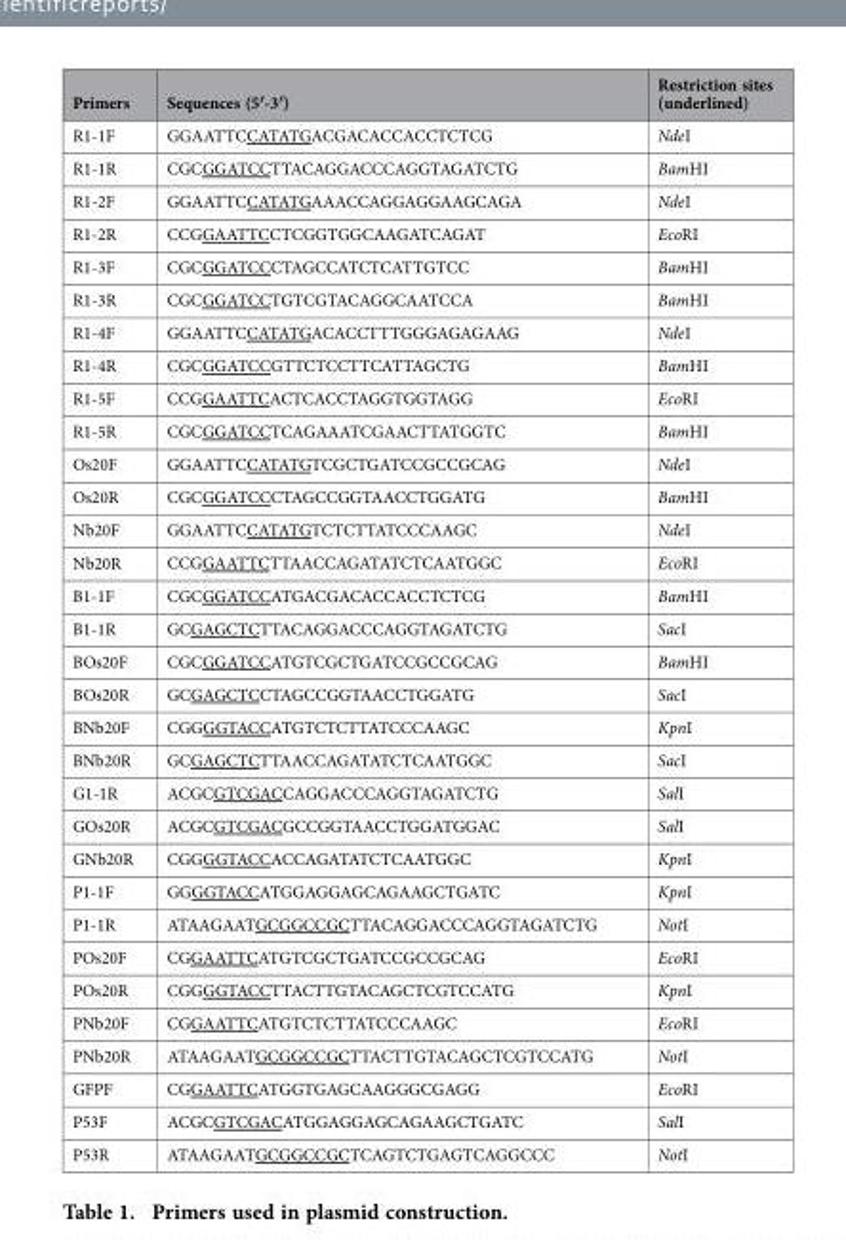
<table><thead><tr><td>Primers</td><td>Sequences (5′-3′)</td><td>Restriction sites (underlined)</td></tr></thead><tbody><tr><td>R1-1F</td><td>GGAATTCCATATGACGACACCACCTCTCG</td><td>NdeI</td></tr><tr><td>R1-1R</td><td>CGCGGATCCTTACAGGACCCAGGTAGATCTG</td><td>BamHI</td></tr><tr><td>R1-2F</td><td>GGAATTCCATATGAAACCAGGAGGAAGCAGA</td><td>NdeI</td></tr><tr><td>R1-2R</td><td>CCGGAATTCCTCGGTGGCAAGATCAGAT</td><td>EcoRI</td></tr><tr><td>R1-3F</td><td>CGCGGATCCCTAGCCATCTCATTGTCC</td><td>BamHI</td></tr><tr><td>R1-3R</td><td>CGCGGATCCTGTCGTACAGGCAATCCA</td><td>BamHI</td></tr><tr><td>R1-4F</td><td>GGAATTCCATATGACACCTTTGGGAGAGAAG</td><td>NdeI</td></tr><tr><td>R1-4R</td><td>CGCGGATCCGTTCTCCTTCATTAGCTG</td><td>BamHI</td></tr><tr><td>R1-5F</td><td>CCGGAATTCACTCACCTAGGTGGTAGG</td><td>EcoRI</td></tr><tr><td>R1-5R</td><td>CGCGGATCCTCAGAAATCGAACTTATGGTC</td><td>BamHI</td></tr><tr><td>Os20F</td><td>GGAATTCCATATGTCGCTGATCCGCCGCAG</td><td>NdeI</td></tr><tr><td>Os20R</td><td>CGCGGATCCCTAGCCGGTAACCTGGATG</td><td>BamHI</td></tr><tr><td>Nb20F</td><td>GGAATTCCATATGTCTCTTATCCCAAGC</td><td>NdeI</td></tr><tr><td>Nb20R</td><td>CCGGAATTCTTAACCAGATATCTCAATGGC</td><td>EcoRI</td></tr><tr><td>B1-1F</td><td>CGCGGATCCATGACGACACCACCTCTCG</td><td>BamHI</td></tr><tr><td>B1-1R</td><td>GCGAGCTCTTACAGGACCCAGGTAGATCTG</td><td>SacI</td></tr><tr><td>BOs20F</td><td>CGCGGATCCATGTCGCTGATCCGCCGCAG</td><td>BamHI</td></tr><tr><td>BOs20R</td><td>GCGAGCTCCTAGCCGGTAACCTGGATG</td><td>SacI</td></tr><tr><td>BNb20F</td><td>CGGGGTACCATGTCTCTTATCCCAAGC</td><td>KpnI</td></tr><tr><td>BNb20R</td><td>GCGAGCTCTTAACCAGATATCTCAATGGC</td><td>SacI</td></tr><tr><td>G1-1R</td><td>ACGCGTCGACCAGGACCCAGGTAGATCTG</td><td>SalI</td></tr><tr><td>GOs20R</td><td>ACGCGTCGACGCCGGTAACCTGGATGGAC</td><td>SalI</td></tr><tr><td>GNb20R</td><td>CGGGGTACCACCAGATATCTCAATGGC</td><td>KpnI</td></tr><tr><td>P1-1F</td><td>GGGGTACCATGGAGGAGCAGAAGCTGATC</td><td>KpnI</td></tr><tr><td>P1-1R</td><td>ATAAGAATGCGGCCGCTTACAGGACCCAGGTAGATCTG</td><td>NotI</td></tr><tr><td>POs20F</td><td>CGGAATTCATGTCGCTGATCCGCCGCAG</td><td>EcoRI</td></tr><tr><td>POs20R</td><td>CGGGGTACCTTACTTGTACAGCTCGTCCATG</td><td>KpnI</td></tr><tr><td>PNb20F</td><td>CGGAATTCATGTCTCTTATCCCAAGC</td><td>EcoRI</td></tr><tr><td>PNb20R</td><td>ATAAGAATGCGGCCGCTTACTTGTACAGCTCGTCCATG</td><td>NotI</td></tr><tr><td>GFPF</td><td>CGGAATTCATGGTGAGCAAGGGCGAGG</td><td>EcoRI</td></tr><tr><td>P53F</td><td>ACGCGTCGACATGGAGGAGCAGAAGCTGATC</td><td>SalI</td></tr><tr><td>P53R</td><td>ATAAGAATGCGGCCGCTCAGTCTGAGTCAGGCCC</td><td>NotI</td></tr></tbody></table>